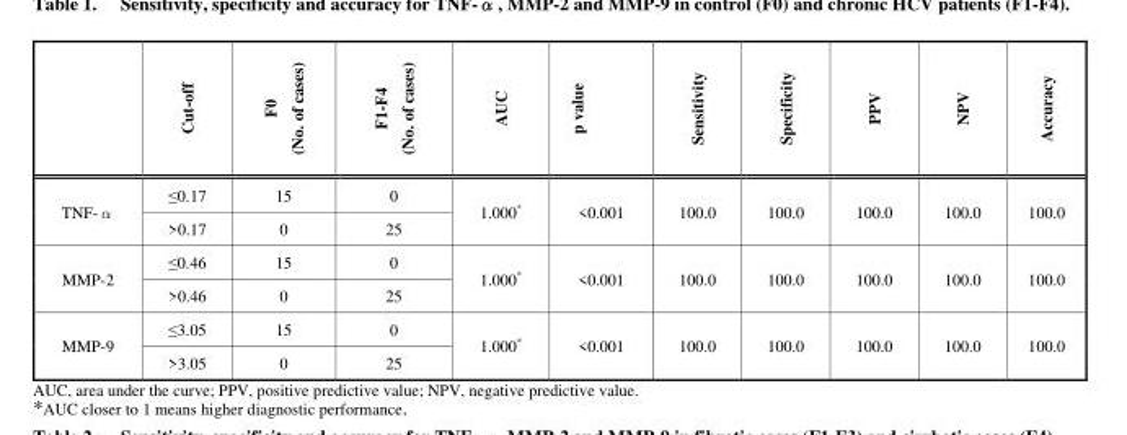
<table><thead><tr><td></td><td>Cut-off</td><td>F0 (No. of cases)</td><td>F1-F4 (No. of cases)</td><td>AUC</td><td>p value</td><td>Sensitivity</td><td>Specificity</td><td>PPV</td><td>NPV</td><td>Accuracy</td></tr></thead><tbody><tr><td rowspan="2">TNF-α</td><td>≤0.17</td><td>15</td><td>0</td><td rowspan="2">1.000*</td><td rowspan="2">&lt;0.001</td><td rowspan="2">100.0</td><td rowspan="2">100.0</td><td rowspan="2">100.0</td><td rowspan="2">100.0</td><td rowspan="2">100.0</td></tr><tr><td>&gt;0.17</td><td>0</td><td>25</td></tr><tr><td rowspan="2">MMP-2</td><td>≤0.46</td><td>15</td><td>0</td><td rowspan="2">1.000*</td><td rowspan="2">&lt;0.001</td><td rowspan="2">100.0</td><td rowspan="2">100.0</td><td rowspan="2">100.0</td><td rowspan="2">100.0</td><td rowspan="2">100.0</td></tr><tr><td>&gt;0.46</td><td>0</td><td>25</td></tr><tr><td rowspan="2">MMP-9</td><td>≤3.05</td><td>15</td><td>0</td><td rowspan="2">1.000*</td><td rowspan="2">&lt;0.001</td><td rowspan="2">100.0</td><td rowspan="2">100.0</td><td rowspan="2">100.0</td><td rowspan="2">100.0</td><td rowspan="2">100.0</td></tr><tr><td>&gt;3.05</td><td>0</td><td>25</td></tr></tbody></table>